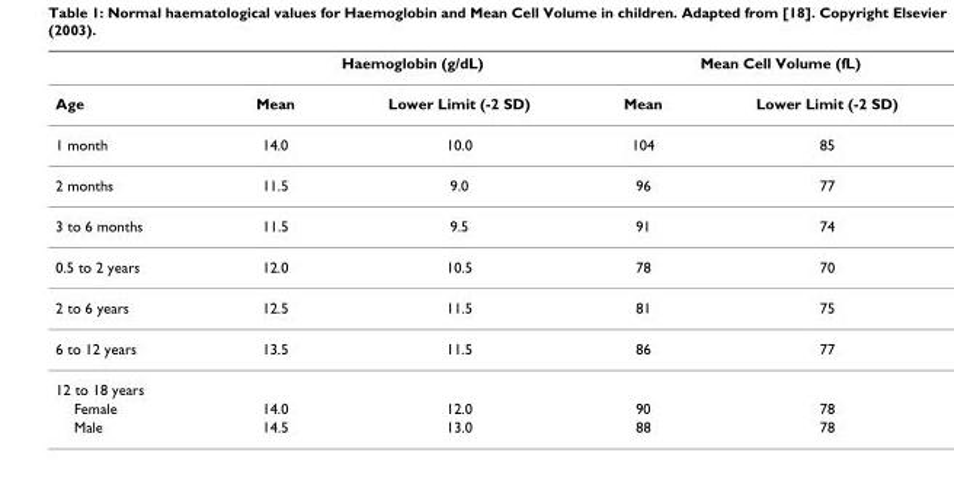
<table><thead><tr><td rowspan="2">Age</td><td colspan="2">Haemoglobin (g/dL)</td><td colspan="2">Mean Cell Volume (fL)</td></tr><tr><td>Mean</td><td>Lower Limit (-2 SD)</td><td>Mean</td><td>Lower Limit (-2 SD)</td></tr></thead><tbody><tr><td>1 month</td><td>14.0</td><td>10.0</td><td>104</td><td>85</td></tr><tr><td>2 months</td><td>11.5</td><td>9.0</td><td>96</td><td>77</td></tr><tr><td>3 to 6 months</td><td>11.5</td><td>9.5</td><td>91</td><td>74</td></tr><tr><td>0.5 to 2 years</td><td>12.0</td><td>10.5</td><td>78</td><td>70</td></tr><tr><td>2 to 6 years</td><td>12.5</td><td>11.5</td><td>81</td><td>75</td></tr><tr><td>6 to 12 years</td><td>13.5</td><td>11.5</td><td>86</td><td>77</td></tr><tr><td colspan="5">12 to 18 years</td></tr><tr><td>Female</td><td>14.0</td><td>12.0</td><td>90</td><td>78</td></tr><tr><td>Male</td><td>14.5</td><td>13.0</td><td>88</td><td>78</td></tr></tbody></table>